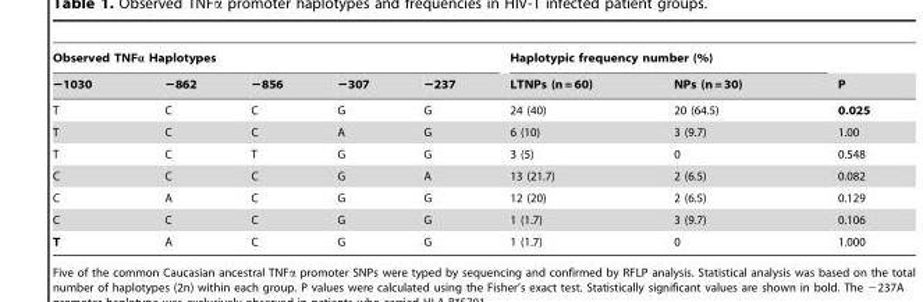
<table><thead><tr><td colspan="5">Observed TNFα Haplotypes</td><td colspan="2">Haplotypic frequency number (%)</td><td rowspan="2">P</td></tr><tr><td>−1030</td><td>−862</td><td>−856</td><td>−307</td><td>−237</td><td>LTNPs (n = 60)</td><td>NPs (n = 30)</td></tr></thead><tbody><tr><td>T</td><td>C</td><td>C</td><td>G</td><td>G</td><td>24 (40)</td><td>20 (64.5)</td><td>0.025</td></tr><tr><td>T</td><td>C</td><td>C</td><td>A</td><td>G</td><td>6 (10)</td><td>3 (9.7)</td><td>1.00</td></tr><tr><td>T</td><td>C</td><td>T</td><td>G</td><td>G</td><td>3 (5)</td><td>0</td><td>0.548</td></tr><tr><td>C</td><td>C</td><td>C</td><td>G</td><td>A</td><td>13 (21.7)</td><td>2 (6.5)</td><td>0.082</td></tr><tr><td>C</td><td>A</td><td>C</td><td>G</td><td>G</td><td>12 (20)</td><td>2 (6.5)</td><td>0.129</td></tr><tr><td>C</td><td>C</td><td>C</td><td>G</td><td>G</td><td>1 (1.7)</td><td>3 (9.7)</td><td>0.106</td></tr><tr><td>T</td><td>A</td><td>C</td><td>G</td><td>G</td><td>1 (1.7)</td><td>0</td><td>1.000</td></tr></tbody></table>